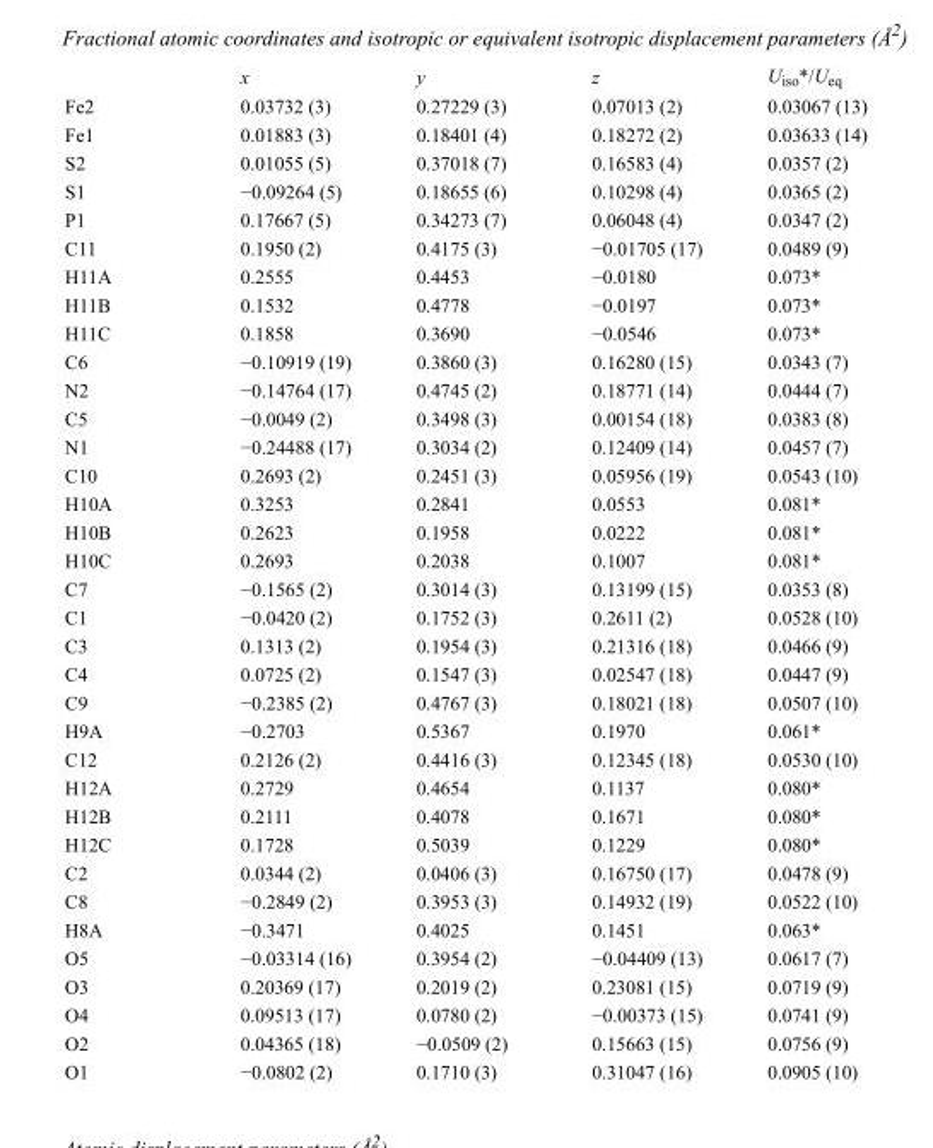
<table><thead><tr><td></td><td>x</td><td>y</td><td>z</td><td>U<sub>iso</sub>*/U<sub>eq</sub></td></tr></thead><tbody><tr><td>Fe2</td><td>0.03732 (3)</td><td>0.27229 (3)</td><td>0.07013 (2)</td><td>0.03067 (13)</td></tr><tr><td>Fe1</td><td>0.01883 (3)</td><td>0.18401 (4)</td><td>0.18272 (2)</td><td>0.03633 (14)</td></tr><tr><td>S2</td><td>0.01055 (5)</td><td>0.37018 (7)</td><td>0.16583 (4)</td><td>0.0357 (2)</td></tr><tr><td>S1</td><td>−0.09264 (5)</td><td>0.18655 (6)</td><td>0.10298 (4)</td><td>0.0365 (2)</td></tr><tr><td>P1</td><td>0.17667 (5)</td><td>0.34273 (7)</td><td>0.06048 (4)</td><td>0.0347 (2)</td></tr><tr><td>C11</td><td>0.1950 (2)</td><td>0.4175 (3)</td><td>−0.01705 (17)</td><td>0.0489 (9)</td></tr><tr><td>H11A</td><td>0.2555</td><td>0.4453</td><td>−0.0180</td><td>0.073*</td></tr><tr><td>H11B</td><td>0.1532</td><td>0.4778</td><td>−0.0197</td><td>0.073*</td></tr><tr><td>H11C</td><td>0.1858</td><td>0.3690</td><td>−0.0546</td><td>0.073*</td></tr><tr><td>C6</td><td>−0.10919 (19)</td><td>0.3860 (3)</td><td>0.16280 (15)</td><td>0.0343 (7)</td></tr><tr><td>N2</td><td>−0.14764 (17)</td><td>0.4745 (2)</td><td>0.18771 (14)</td><td>0.0444 (7)</td></tr><tr><td>C5</td><td>−0.0049 (2)</td><td>0.3498 (3)</td><td>0.00154 (18)</td><td>0.0383 (8)</td></tr><tr><td>N1</td><td>−0.24488 (17)</td><td>0.3034 (2)</td><td>0.12409 (14)</td><td>0.0457 (7)</td></tr><tr><td>C10</td><td>0.2693 (2)</td><td>0.2451 (3)</td><td>0.05956 (19)</td><td>0.0543 (10)</td></tr><tr><td>H10A</td><td>0.3253</td><td>0.2841</td><td>0.0553</td><td>0.081*</td></tr><tr><td>H10B</td><td>0.2623</td><td>0.1958</td><td>0.0222</td><td>0.081*</td></tr><tr><td>H10C</td><td>0.2693</td><td>0.2038</td><td>0.1007</td><td>0.081*</td></tr><tr><td>C7</td><td>−0.1565 (2)</td><td>0.3014 (3)</td><td>0.13199 (15)</td><td>0.0353 (8)</td></tr><tr><td>C1</td><td>−0.0420 (2)</td><td>0.1752 (3)</td><td>0.2611 (2)</td><td>0.0528 (10)</td></tr><tr><td>C3</td><td>0.1313 (2)</td><td>0.1954 (3)</td><td>0.21316 (18)</td><td>0.0466 (9)</td></tr><tr><td>C4</td><td>0.0725 (2)</td><td>0.1547 (3)</td><td>0.02547 (18)</td><td>0.0447 (9)</td></tr><tr><td>C9</td><td>−0.2385 (2)</td><td>0.4767 (3)</td><td>0.18021 (18)</td><td>0.0507 (10)</td></tr><tr><td>H9A</td><td>−0.2703</td><td>0.5367</td><td>0.1970</td><td>0.061*</td></tr><tr><td>C12</td><td>0.2126 (2)</td><td>0.4416 (3)</td><td>0.12345 (18)</td><td>0.0530 (10)</td></tr><tr><td>H12A</td><td>0.2729</td><td>0.4654</td><td>0.1137</td><td>0.080*</td></tr><tr><td>H12B</td><td>0.2111</td><td>0.4078</td><td>0.1671</td><td>0.080*</td></tr><tr><td>H12C</td><td>0.1728</td><td>0.5039</td><td>0.1229</td><td>0.080*</td></tr><tr><td>C2</td><td>0.0344 (2)</td><td>0.0406 (3)</td><td>0.16750 (17)</td><td>0.0478 (9)</td></tr><tr><td>C8</td><td>−0.2849 (2)</td><td>0.3953 (3)</td><td>0.14932 (19)</td><td>0.0522 (10)</td></tr><tr><td>H8A</td><td>−0.3471</td><td>0.4025</td><td>0.1451</td><td>0.063*</td></tr><tr><td>O5</td><td>−0.03314 (16)</td><td>0.3954 (2)</td><td>−0.04409 (13)</td><td>0.0617 (7)</td></tr><tr><td>O3</td><td>0.20369 (17)</td><td>0.2019 (2)</td><td>0.23081 (15)</td><td>0.0719 (9)</td></tr><tr><td>O4</td><td>0.09513 (17)</td><td>0.0780 (2)</td><td>−0.00373 (15)</td><td>0.0741 (9)</td></tr><tr><td>O2</td><td>0.04365 (18)</td><td>−0.0509 (2)</td><td>0.15663 (15)</td><td>0.0756 (9)</td></tr><tr><td>O1</td><td>−0.0802 (2)</td><td>0.1710 (3)</td><td>0.31047 (16)</td><td>0.0905 (10)</td></tr></tbody></table>